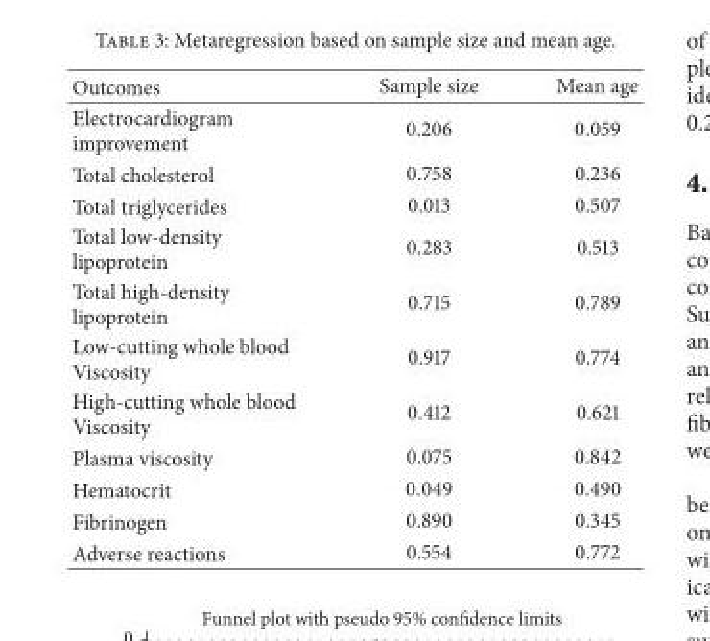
<table><thead><tr><td>Outcomes</td><td>Sample size</td><td>Mean age</td></tr></thead><tbody><tr><td>Electrocardiogram improvement</td><td>0.206</td><td>0.059</td></tr><tr><td>Total cholesterol</td><td>0.758</td><td>0.236</td></tr><tr><td>Total triglycerides</td><td>0.013</td><td>0.507</td></tr><tr><td>Total low-density lipoprotein</td><td>0.283</td><td>0.513</td></tr><tr><td>Total high-density lipoprotein</td><td>0.715</td><td>0.789</td></tr><tr><td>Low-cutting whole blood Viscosity</td><td>0.917</td><td>0.774</td></tr><tr><td>High-cutting whole blood Viscosity</td><td>0.412</td><td>0.621</td></tr><tr><td>Plasma viscosity</td><td>0.075</td><td>0.842</td></tr><tr><td>Hematocrit</td><td>0.049</td><td>0.490</td></tr><tr><td>Fibrinogen</td><td>0.890</td><td>0.345</td></tr><tr><td>Adverse reactions</td><td>0.554</td><td>0.772</td></tr></tbody></table>